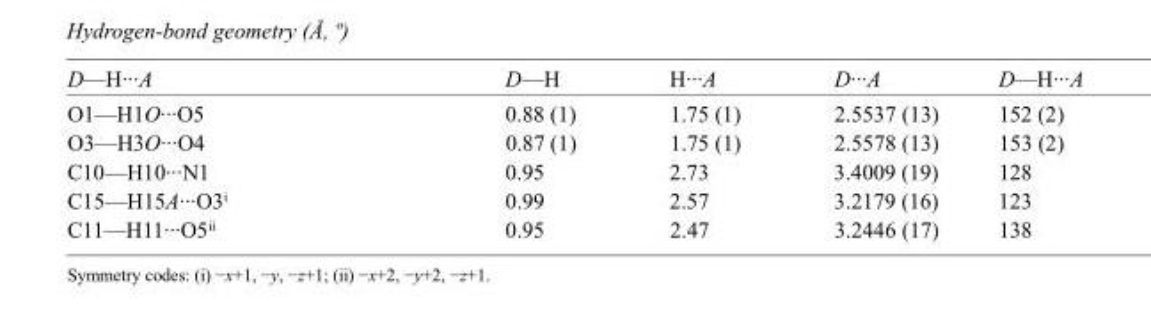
<table><tbody><tr><td>D—H···A</td><td>D—H</td><td>H···A</td><td>D···A</td><td>D—H···A</td></tr><tr><td>O1—H1O···O5</td><td>0.88 (1)</td><td>1.75 (1)</td><td>2.5537 (13)</td><td>152 (2)</td></tr><tr><td>O3—H3O···O4</td><td>0.87 (1)</td><td>1.75 (1)</td><td>2.5578 (13)</td><td>153 (2)</td></tr><tr><td>C10—H10···N1</td><td>0.95</td><td>2.73</td><td>3.4009 (19)</td><td>128</td></tr><tr><td>C15—H15A···O3<sup>i</sup></td><td>0.99</td><td>2.57</td><td>3.2179 (16)</td><td>123</td></tr><tr><td>C11—H11···O5<sup>ii</sup></td><td>0.95</td><td>2.47</td><td>3.2446 (17)</td><td>138</td></tr></tbody></table>